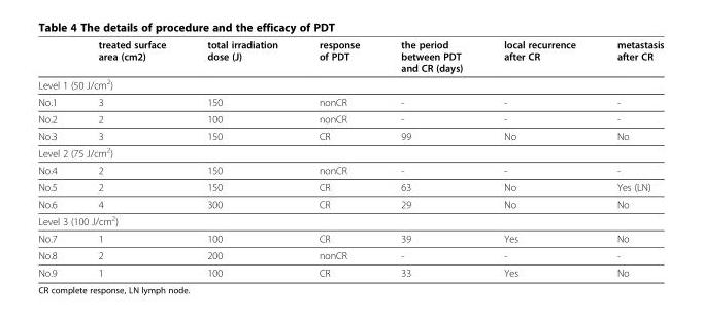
<table><thead><tr><td></td><td>treated surface area (cm2)</td><td>total irradiation dose (J)</td><td>response of PDT</td><td>the period between PDT and CR (days)</td><td>local recurrence after CR</td><td>metastasis after CR</td></tr></thead><tbody><tr><td colspan="7">Level 1 (50 J/cm<sup>2</sup>)</td></tr><tr><td>No.1</td><td>3</td><td>150</td><td>nonCR</td><td>-</td><td>-</td><td>-</td></tr><tr><td>No.2</td><td>2</td><td>100</td><td>nonCR</td><td>-</td><td>-</td><td>-</td></tr><tr><td>No.3</td><td>3</td><td>150</td><td>CR</td><td>99</td><td>No</td><td>No</td></tr><tr><td colspan="7">Level 2 (75 J/cm<sup>2</sup>)</td></tr><tr><td>No.4</td><td>2</td><td>150</td><td>nonCR</td><td>-</td><td>-</td><td>-</td></tr><tr><td>No.5</td><td>2</td><td>150</td><td>CR</td><td>63</td><td>No</td><td>Yes (LN)</td></tr><tr><td>No.6</td><td>4</td><td>300</td><td>CR</td><td>29</td><td>No</td><td>No</td></tr><tr><td colspan="7">Level 3 (100 J/cm<sup>2</sup>)</td></tr><tr><td>No.7</td><td>1</td><td>100</td><td>CR</td><td>39</td><td>Yes</td><td>No</td></tr><tr><td>No.8</td><td>2</td><td>200</td><td>nonCR</td><td>-</td><td>-</td><td>-</td></tr><tr><td>No.9</td><td>1</td><td>100</td><td>CR</td><td>33</td><td>Yes</td><td>No</td></tr></tbody></table>